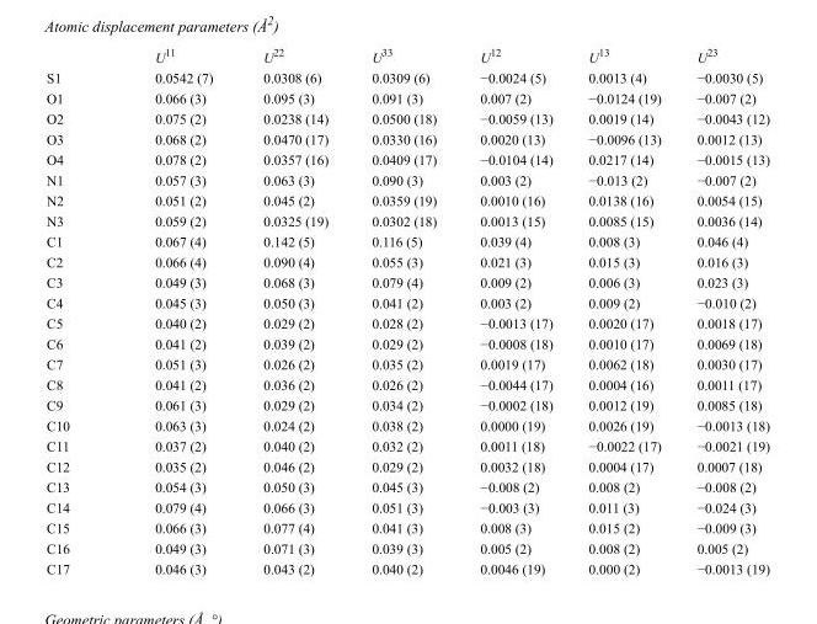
<table><thead><tr><td></td><td>U<sup>11</sup></td><td>U<sup>22</sup></td><td>U<sup>33</sup></td><td>U<sup>12</sup></td><td>U<sup>13</sup></td><td>U<sup>23</sup></td></tr></thead><tbody><tr><td>S1</td><td>0.0542 (7)</td><td>0.0308 (6)</td><td>0.0309 (6)</td><td>−0.0024 (5)</td><td>0.0013 (4)</td><td>−0.0030 (5)</td></tr><tr><td>O1</td><td>0.066 (3)</td><td>0.095 (3)</td><td>0.091 (3)</td><td>0.007 (2)</td><td>−0.0124 (19)</td><td>−0.007 (2)</td></tr><tr><td>O2</td><td>0.075 (2)</td><td>0.0238 (14)</td><td>0.0500 (18)</td><td>−0.0059 (13)</td><td>0.0019 (14)</td><td>−0.0043 (12)</td></tr><tr><td>O3</td><td>0.068 (2)</td><td>0.0470 (17)</td><td>0.0330 (16)</td><td>0.0020 (13)</td><td>−0.0096 (13)</td><td>0.0012 (13)</td></tr><tr><td>O4</td><td>0.078 (2)</td><td>0.0357 (16)</td><td>0.0409 (17)</td><td>−0.0104 (14)</td><td>0.0217 (14)</td><td>−0.0015 (13)</td></tr><tr><td>N1</td><td>0.057 (3)</td><td>0.063 (3)</td><td>0.090 (3)</td><td>0.003 (2)</td><td>−0.013 (2)</td><td>−0.007 (2)</td></tr><tr><td>N2</td><td>0.051 (2)</td><td>0.045 (2)</td><td>0.0359 (19)</td><td>0.0010 (16)</td><td>0.0138 (16)</td><td>0.0054 (15)</td></tr><tr><td>N3</td><td>0.059 (2)</td><td>0.0325 (19)</td><td>0.0302 (18)</td><td>0.0013 (15)</td><td>0.0085 (15)</td><td>0.0036 (14)</td></tr><tr><td>C1</td><td>0.067 (4)</td><td>0.142 (5)</td><td>0.116 (5)</td><td>0.039 (4)</td><td>0.008 (3)</td><td>0.046 (4)</td></tr><tr><td>C2</td><td>0.066 (4)</td><td>0.090 (4)</td><td>0.055 (3)</td><td>0.021 (3)</td><td>0.015 (3)</td><td>0.016 (3)</td></tr><tr><td>C3</td><td>0.049 (3)</td><td>0.068 (3)</td><td>0.079 (4)</td><td>0.009 (2)</td><td>0.006 (3)</td><td>0.023 (3)</td></tr><tr><td>C4</td><td>0.045 (3)</td><td>0.050 (3)</td><td>0.041 (2)</td><td>0.003 (2)</td><td>0.009 (2)</td><td>−0.010 (2)</td></tr><tr><td>C5</td><td>0.040 (2)</td><td>0.029 (2)</td><td>0.028 (2)</td><td>−0.0013 (17)</td><td>0.0020 (17)</td><td>0.0018 (17)</td></tr><tr><td>C6</td><td>0.041 (2)</td><td>0.039 (2)</td><td>0.029 (2)</td><td>−0.0008 (18)</td><td>0.0010 (17)</td><td>0.0069 (18)</td></tr><tr><td>C7</td><td>0.051 (3)</td><td>0.026 (2)</td><td>0.035 (2)</td><td>0.0019 (17)</td><td>0.0062 (18)</td><td>0.0030 (17)</td></tr><tr><td>C8</td><td>0.041 (2)</td><td>0.036 (2)</td><td>0.026 (2)</td><td>−0.0044 (17)</td><td>0.0004 (16)</td><td>0.0011 (17)</td></tr><tr><td>C9</td><td>0.061 (3)</td><td>0.029 (2)</td><td>0.034 (2)</td><td>−0.0002 (18)</td><td>0.0012 (19)</td><td>0.0085 (18)</td></tr><tr><td>C10</td><td>0.063 (3)</td><td>0.024 (2)</td><td>0.038 (2)</td><td>0.0000 (19)</td><td>0.0026 (19)</td><td>−0.0013 (18)</td></tr><tr><td>C11</td><td>0.037 (2)</td><td>0.040 (2)</td><td>0.032 (2)</td><td>0.0011 (18)</td><td>−0.0022 (17)</td><td>−0.0021 (19)</td></tr><tr><td>C12</td><td>0.035 (2)</td><td>0.046 (2)</td><td>0.029 (2)</td><td>0.0032 (18)</td><td>0.0004 (17)</td><td>0.0007 (18)</td></tr><tr><td>C13</td><td>0.054 (3)</td><td>0.050 (3)</td><td>0.045 (3)</td><td>−0.008 (2)</td><td>0.008 (2)</td><td>−0.008 (2)</td></tr><tr><td>C14</td><td>0.079 (4)</td><td>0.066 (3)</td><td>0.051 (3)</td><td>−0.003 (3)</td><td>0.011 (3)</td><td>−0.024 (3)</td></tr><tr><td>C15</td><td>0.066 (3)</td><td>0.077 (4)</td><td>0.041 (3)</td><td>0.008 (3)</td><td>0.015 (2)</td><td>−0.009 (3)</td></tr><tr><td>C16</td><td>0.049 (3)</td><td>0.071 (3)</td><td>0.039 (3)</td><td>0.005 (2)</td><td>0.008 (2)</td><td>0.005 (2)</td></tr><tr><td>C17</td><td>0.046 (3)</td><td>0.043 (2)</td><td>0.040 (2)</td><td>0.0046 (19)</td><td>0.000 (2)</td><td>−0.0013 (19)</td></tr></tbody></table>